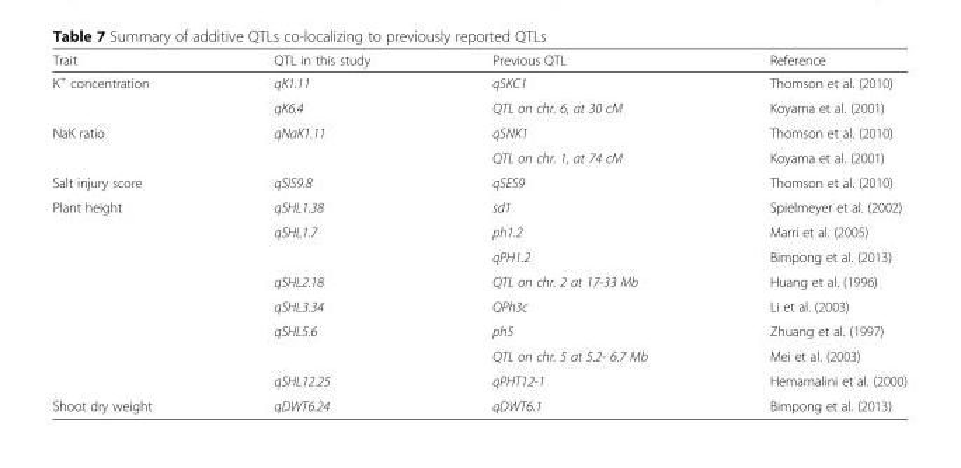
<table><thead><tr><td>Trait</td><td>QTL in this study</td><td>Previous QTL</td><td>Reference</td></tr></thead><tbody><tr><td rowspan="2">K<sup>+</sup> concentration</td><td>qK1.11</td><td>qSKC1</td><td>Thomson et al. (2010)</td></tr><tr><td>qK6.4</td><td>QTL on chr. 6, at 30 cM</td><td>Koyama et al. (2001)</td></tr><tr><td rowspan="2">NaK ratio</td><td>qNaK1.11</td><td>qSNK1</td><td>Thomson et al. (2010)</td></tr><tr><td></td><td>QTL on chr. 1, at 74 cM</td><td>Koyama et al. (2001)</td></tr><tr><td>Salt injury score</td><td>qSIS9.8</td><td>qSES9</td><td>Thomson et al. (2010)</td></tr><tr><td rowspan="8">Plant height</td><td>qSHL1.38</td><td>sd1</td><td>Spielmeyer et al. (2002)</td></tr><tr><td>qSHL1.7</td><td>ph1.2</td><td>Marri et al. (2005)</td></tr><tr><td></td><td>qPH1.2</td><td>Bimpong et al. (2013)</td></tr><tr><td>qSHL2.18</td><td>QTL on chr. 2 at 17-33 Mb</td><td>Huang et al. (1996)</td></tr><tr><td>qSHL3.34</td><td>QPh3c</td><td>Li et al. (2003)</td></tr><tr><td>qSHL5.6</td><td>ph5</td><td>Zhuang et al. (1997)</td></tr><tr><td></td><td>QTL on chr. 5 at 5.2- 6.7 Mb</td><td>Mei et al. (2003)</td></tr><tr><td>qSHL12.25</td><td>qPHT12-1</td><td>Hemamalini et al. (2000)</td></tr><tr><td>Shoot dry weight</td><td>qDWT6.24</td><td>qDWT6.1</td><td>Bimpong et al. (2013)</td></tr></tbody></table>